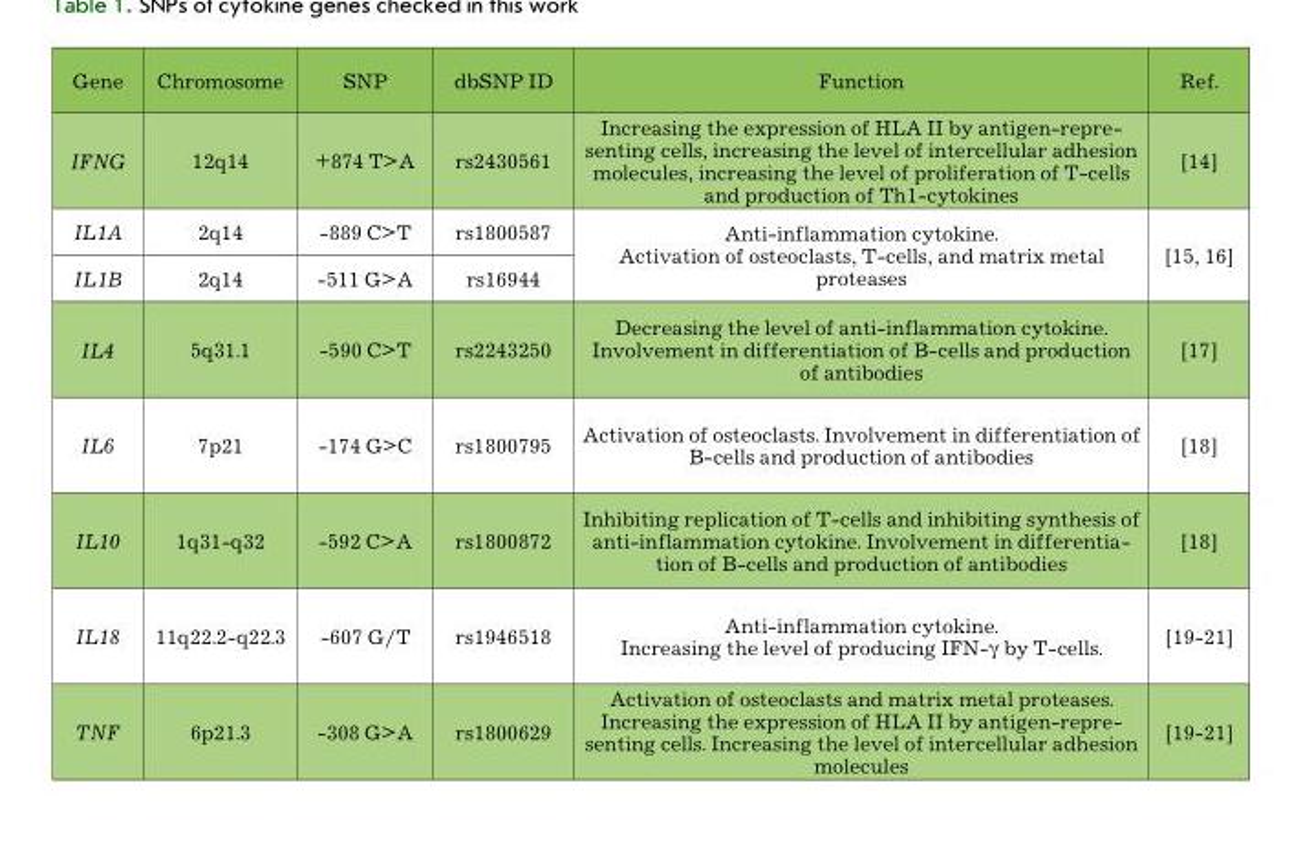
<table><thead><tr><td>Gene</td><td>Chromosome</td><td>SNP</td><td>dbSNP ID</td><td>Function</td><td>Ref.</td></tr></thead><tbody><tr><td>IFNG</td><td>12q14</td><td>+874 Т&gt;A</td><td>rs2430561</td><td>Increasing the expression of HLA II by antigen-repre- senting cells, increasing the level of intercellular adhesion molecules, increasing the level of proliferation of T-cells and production of Th1-cytokines</td><td>[14]</td></tr><tr><td>IL1A</td><td>2q14</td><td>-889 C&gt;T</td><td>rs1800587</td><td rowspan="2">Anti-inflammation cytokine. Activation of osteoclasts, T-cells, and matrix metal proteases</td><td rowspan="2">[15, 16]</td></tr><tr><td>IL1B</td><td>2q14</td><td>-511 G&gt;A</td><td>rs16944</td></tr><tr><td>IL4</td><td>5q31.1</td><td>-590 C&gt;T</td><td>rs2243250</td><td>Decreasing the level of anti-inflammation cytokine. Involvement in differentiation of B-cells and production of antibodies</td><td>[17]</td></tr><tr><td>IL6</td><td>7p21</td><td>-174 G&gt;C</td><td>rs1800795</td><td>Activation of osteoclasts. Involvement in differentiation of B-cells and production of antibodies</td><td>[18]</td></tr><tr><td>IL10</td><td>1q31-q32</td><td>-592 C&gt;A</td><td>rs1800872</td><td>Inhibiting replication of T-cells and inhibiting synthesis of anti-inflammation cytokine. Involvement in differentia- tion of B-cells and production of antibodies</td><td>[18]</td></tr><tr><td>IL18</td><td>11q22.2-q22.3</td><td>-607 G/T</td><td>rs1946518</td><td>Anti-inflammation cytokine. Increasing the level of producing IFN-γ by Т-cells.</td><td>[19-21]</td></tr><tr><td>TNF</td><td>6p21.3</td><td>-308 G&gt;A</td><td>rs1800629</td><td>Activation of osteoclasts and matrix metal proteases. Increasing the expression of HLA II by antigen-repre- senting cells. Increasing the level of intercellular adhesion molecules</td><td>[19-21]</td></tr></tbody></table>